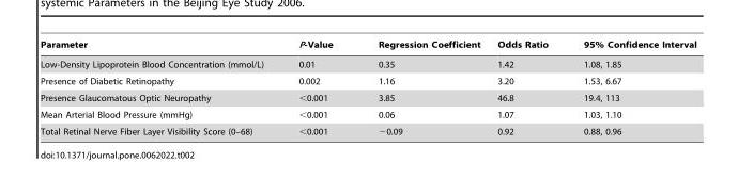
<table><thead><tr><td>Parameter</td><td>P-Value</td><td>Regression Coefficient</td><td>Odds Ratio</td><td>95% Confidence Interval</td></tr></thead><tbody><tr><td>Low-Density Lipoprotein Blood Concentration (mmol/L)</td><td>0.01</td><td>0.35</td><td>1.42</td><td>1.08, 1.85</td></tr><tr><td>Presence of Diabetic Retinopathy</td><td>0.002</td><td>1.16</td><td>3.20</td><td>1.53, 6.67</td></tr><tr><td>Presence Glaucomatous Optic Neuropathy</td><td>&lt;0.001</td><td>3.85</td><td>46.8</td><td>19.4, 113</td></tr><tr><td>Mean Arterial Blood Pressure (mmHg)</td><td>&lt;0.001</td><td>0.06</td><td>1.07</td><td>1.03, 1.10</td></tr><tr><td>Total Retinal Nerve Fiber Layer Visibility Score (0–68)</td><td>&lt;0.001</td><td>−0.09</td><td>0.92</td><td>0.88, 0.96</td></tr></tbody></table>